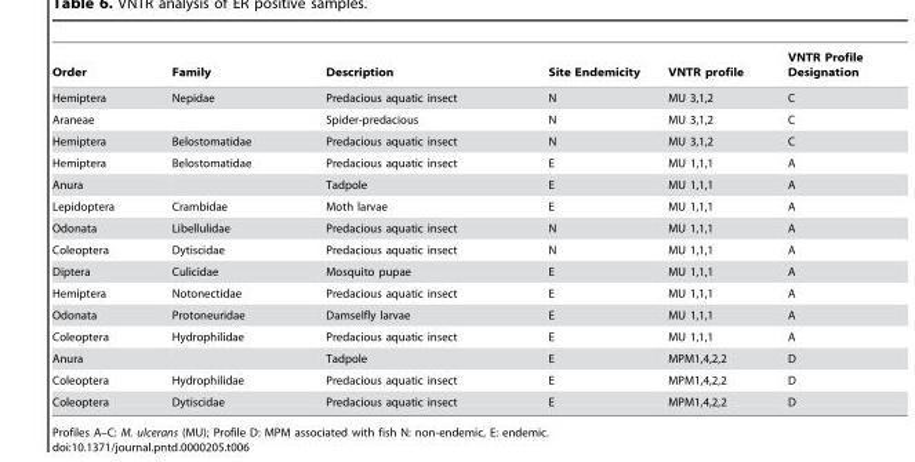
<table><thead><tr><td>Order</td><td>Family</td><td>Description</td><td>Site Endemicity</td><td>VNTR profile</td><td>VNTR Profile Designation</td></tr></thead><tbody><tr><td>Hemiptera</td><td>Nepidae</td><td>Predacious aquatic insect</td><td>N</td><td>MU 3,1,2</td><td>C</td></tr><tr><td>Araneae</td><td></td><td>Spider-predacious</td><td>N</td><td>MU 3,1,2</td><td>C</td></tr><tr><td>Hemiptera</td><td>Belostomatidae</td><td>Predacious aquatic insect</td><td>N</td><td>MU 3,1,2</td><td>C</td></tr><tr><td>Hemiptera</td><td>Belostomatidae</td><td>Predacious aquatic insect</td><td>E</td><td>MU 1,1,1</td><td>A</td></tr><tr><td>Anura</td><td></td><td>Tadpole</td><td>E</td><td>MU 1,1,1</td><td>A</td></tr><tr><td>Lepidoptera</td><td>Crambidae</td><td>Moth larvae</td><td>E</td><td>MU 1,1,1</td><td>A</td></tr><tr><td>Odonata</td><td>Libellulidae</td><td>Predacious aquatic insect</td><td>N</td><td>MU 1,1,1</td><td>A</td></tr><tr><td>Coleoptera</td><td>Dytiscidae</td><td>Predacious aquatic insect</td><td>N</td><td>MU 1,1,1</td><td>A</td></tr><tr><td>Diptera</td><td>Culicidae</td><td>Mosquito pupae</td><td>E</td><td>MU 1,1,1</td><td>A</td></tr><tr><td>Hemiptera</td><td>Notonectidae</td><td>Predacious aquatic insect</td><td>E</td><td>MU 1,1,1</td><td>A</td></tr><tr><td>Odonata</td><td>Protoneuridae</td><td>Damselfly larvae</td><td>E</td><td>MU 1,1,1</td><td>A</td></tr><tr><td>Coleoptera</td><td>Hydrophilidae</td><td>Predacious aquatic insect</td><td>E</td><td>MU 1,1,1</td><td>A</td></tr><tr><td>Anura</td><td></td><td>Tadpole</td><td>E</td><td>MPM1,4,2,2</td><td>D</td></tr><tr><td>Coleoptera</td><td>Hydrophilidae</td><td>Predacious aquatic insect</td><td>E</td><td>MPM1,4,2,2</td><td>D</td></tr><tr><td>Coleoptera</td><td>Dytiscidae</td><td>Predacious aquatic insect</td><td>E</td><td>MPM1,4,2,2</td><td>D</td></tr></tbody></table>